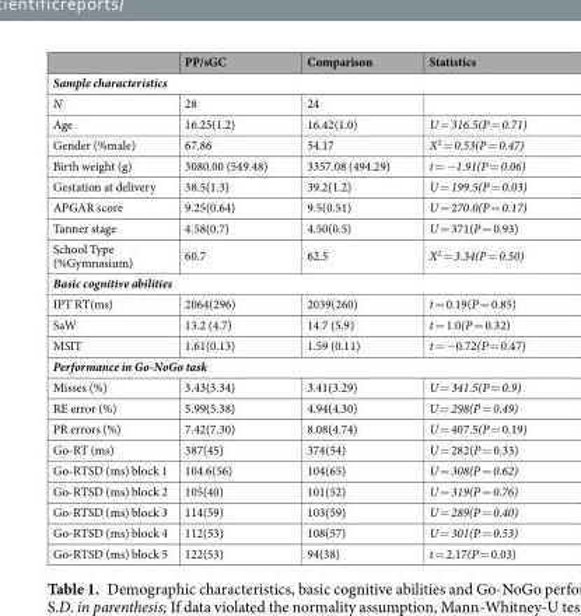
<table><thead><tr><td></td><td>PP/sGC</td><td>Comparison</td><td>Statistics</td></tr></thead><tbody><tr><td colspan="4">Sample characteristics</td></tr><tr><td>N</td><td>28</td><td>24</td><td></td></tr><tr><td>Age</td><td>16.25(1.2)</td><td>16.42(1.0)</td><td>U = 316.5(P = 0.71)</td></tr><tr><td>Gender (%male)</td><td>67.86</td><td>54.17</td><td>X<sup>2</sup> = 0.53(P = 0.47)</td></tr><tr><td>Birth weight (g)</td><td>3080.00 (549.48)</td><td>3357.08 (494.29)</td><td>t = −1.91(P = 0.06)</td></tr><tr><td>Gestation at delivery</td><td>38.5(1.3)</td><td>39.2(1.2)</td><td>U = 199.5(P = 0.03)</td></tr><tr><td>APGAR score</td><td>9.25(0.64)</td><td>9.5(0.51)</td><td>U = 270.0(P = 0.17)</td></tr><tr><td>Tanner stage</td><td>4.58(0.7)</td><td>4.50(0.5)</td><td>U = 371(P = 0.93)</td></tr><tr><td>School Type (%Gymnasium)</td><td>60.7</td><td>62.5</td><td>X<sup>2</sup> = 3.34(P = 0.50)</td></tr><tr><td colspan="4">Basic cognitive abilities</td></tr><tr><td>IPT RT(ms)</td><td>2064(296)</td><td>2039(260)</td><td>t = 0.19(P = 0.85)</td></tr><tr><td>SaW</td><td>13.2 (4.7)</td><td>14.7 (5.9)</td><td>t = 1.0(P = 0.32)</td></tr><tr><td>MSIT</td><td>1.61(0.13)</td><td>1.59 (0.11)</td><td>t = −0.72(P = 0.47)</td></tr><tr><td colspan="4">Performance in Go-NoGo task</td></tr><tr><td>Misses (%)</td><td>3.43(3.34)</td><td>3.41(3.29)</td><td>U = 341.5(P = 0.9)</td></tr><tr><td>RE error (%)</td><td>5.99(5.38)</td><td>4.94(4.30)</td><td>U = 298(P = 0.49)</td></tr><tr><td>PR errors (%)</td><td>7.42(7.30)</td><td>8.08(4.74)</td><td>U = 407.5(P = 0.19)</td></tr><tr><td>Go-RT (ms)</td><td>387(45)</td><td>374(54)</td><td>U = 282(P = 0.33)</td></tr><tr><td>Go-RTSD (ms) block 1</td><td>104.6(56)</td><td>104(65)</td><td>U = 308(P = 0.62)</td></tr><tr><td>Go-RTSD (ms) block 2</td><td>105(40)</td><td>101(52)</td><td>U = 319(P = 0.76)</td></tr><tr><td>Go-RTSD (ms) block 3</td><td>114(59)</td><td>103(59)</td><td>U = 289(P = 0.40)</td></tr><tr><td>Go-RTSD (ms) block 4</td><td>112(53)</td><td>108(57)</td><td>U = 301(P = 0.53)</td></tr><tr><td>Go-RTSD (ms) block 5</td><td>122(53)</td><td>94(38)</td><td>t = 2.17(P = 0.03)</td></tr></tbody></table>